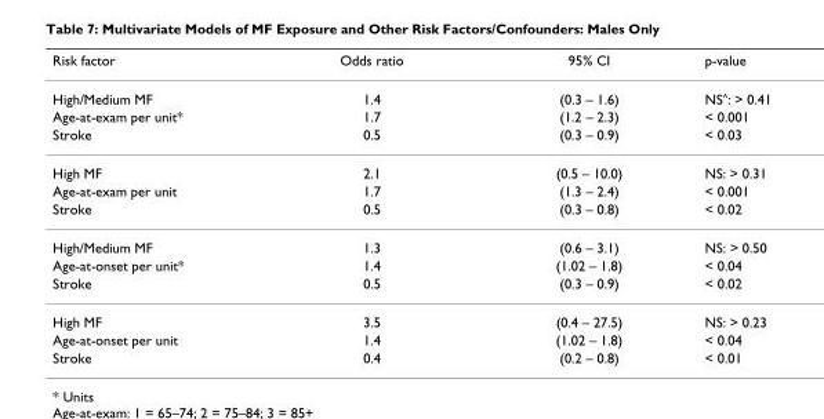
<table><thead><tr><td>Risk factor</td><td>Odds ratio</td><td>95% CI</td><td>p-value</td></tr></thead><tbody><tr><td>High/Medium MF</td><td>1.4</td><td>(0.3 – 1.6)</td><td>NS<sup>^</sup>: &gt; 0.41</td></tr><tr><td>Age-at-exam per unit*</td><td>1.7</td><td>(1.2 – 2.3)</td><td>&lt; 0.001</td></tr><tr><td>Stroke</td><td>0.5</td><td>(0.3 – 0.9)</td><td>&lt; 0.03</td></tr><tr><td>High MF</td><td>2.1</td><td>(0.5 – 10.0)</td><td>NS: &gt; 0.31</td></tr><tr><td>Age-at-exam per unit</td><td>1.7</td><td>(1.3 – 2.4)</td><td>&lt; 0.001</td></tr><tr><td>Stroke</td><td>0.5</td><td>(0.3 – 0.8)</td><td>&lt; 0.02</td></tr><tr><td>High/Medium MF</td><td>1.3</td><td>(0.6 – 3.1)</td><td>NS: &gt; 0.50</td></tr><tr><td>Age-at-onset per unit*</td><td>1.4</td><td>(1.02 – 1.8)</td><td>&lt; 0.04</td></tr><tr><td>Stroke</td><td>0.5</td><td>(0.3 – 0.9)</td><td>&lt; 0.02</td></tr><tr><td>High MF</td><td>3.5</td><td>(0.4 – 27.5)</td><td>NS: &gt; 0.23</td></tr><tr><td>Age-at-onset per unit</td><td>1.4</td><td>(1.02 – 1.8)</td><td>&lt; 0.04</td></tr><tr><td>Stroke</td><td>0.4</td><td>(0.2 – 0.8)</td><td>&lt; 0.01</td></tr></tbody></table>